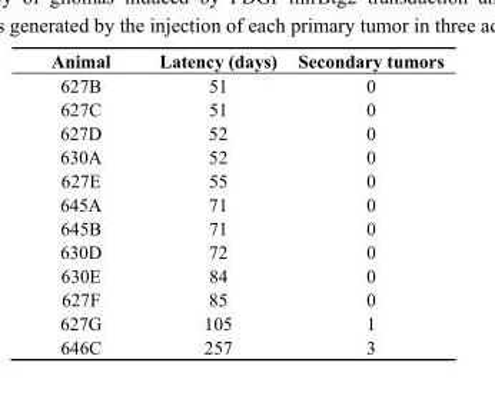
<table><thead><tr><td>Animal</td><td>Latency (days)</td><td>Secondary tumors</td></tr></thead><tbody><tr><td>627B</td><td>51</td><td>0</td></tr><tr><td>627C</td><td>51</td><td>0</td></tr><tr><td>627D</td><td>52</td><td>0</td></tr><tr><td>630A</td><td>52</td><td>0</td></tr><tr><td>627E</td><td>55</td><td>0</td></tr><tr><td>645A</td><td>71</td><td>0</td></tr><tr><td>645B</td><td>71</td><td>0</td></tr><tr><td>630D</td><td>72</td><td>0</td></tr><tr><td>630E</td><td>84</td><td>0</td></tr><tr><td>627F</td><td>85</td><td>0</td></tr><tr><td>627G</td><td>105</td><td>1</td></tr><tr><td>646C</td><td>257</td><td>3</td></tr></tbody></table>